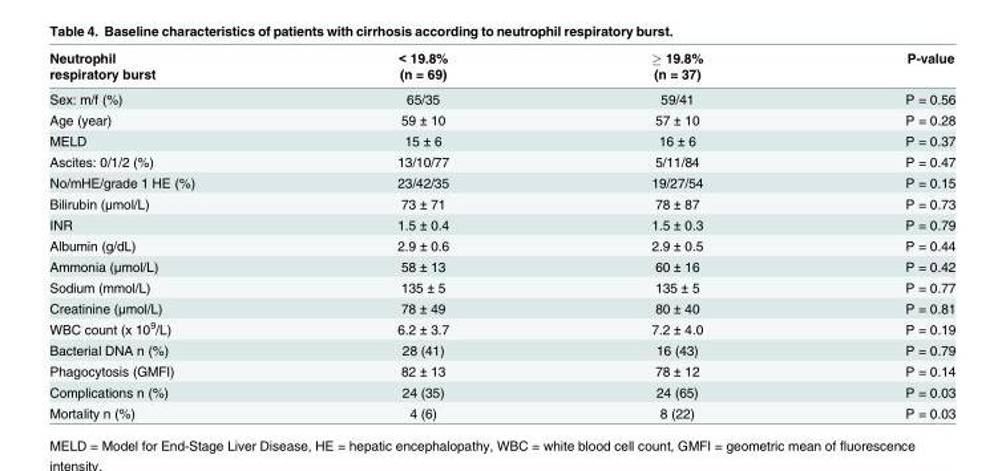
<table><thead><tr><td rowspan="2">Neutrophil respiratory burst</td><td rowspan="2">&lt; 19.8% (n = 69)</td><td rowspan="2">≥ 19.8% (n = 37)</td><td rowspan="2">P-value</td></tr><tr></tr></thead><tbody><tr><td>Sex: m/f (%)</td><td>65/35</td><td>59/41</td><td>P = 0.56</td></tr><tr><td>Age (year)</td><td>59 ± 10</td><td>57 ± 10</td><td>P = 0.28</td></tr><tr><td>MELD</td><td>15 ± 6</td><td>16 ± 6</td><td>P = 0.37</td></tr><tr><td>Ascites: 0/1/2 (%)</td><td>13/10/77</td><td>5/11/84</td><td>P = 0.47</td></tr><tr><td>No/mHE/grade 1 HE (%)</td><td>23/42/35</td><td>19/27/54</td><td>P = 0.15</td></tr><tr><td>Bilirubin (μmol/L)</td><td>73 ± 71</td><td>78 ± 87</td><td>P = 0.73</td></tr><tr><td>INR</td><td>1.5 ± 0.4</td><td>1.5 ± 0.3</td><td>P = 0.79</td></tr><tr><td>Albumin (g/dL)</td><td>2.9 ± 0.6</td><td>2.9 ± 0.5</td><td>P = 0.44</td></tr><tr><td>Ammonia (μmol/L)</td><td>58 ± 13</td><td>60 ± 16</td><td>P = 0.42</td></tr><tr><td>Sodium (mmol/L)</td><td>135 ± 5</td><td>135 ± 5</td><td>P = 0.77</td></tr><tr><td>Creatinine (μmol/L)</td><td>78 ± 49</td><td>80 ± 40</td><td>P = 0.81</td></tr><tr><td>WBC count (x 10<sup>9</sup>/L)</td><td>6.2 ± 3.7</td><td>7.2 ± 4.0</td><td>P = 0.19</td></tr><tr><td>Bacterial DNA n (%)</td><td>28 (41)</td><td>16 (43)</td><td>P = 0.79</td></tr><tr><td>Phagocytosis (GMFI)</td><td>82 ± 13</td><td>78 ± 12</td><td>P = 0.14</td></tr><tr><td>Complications n (%)</td><td>24 (35)</td><td>24 (65)</td><td>P = 0.03</td></tr><tr><td>Mortality n (%)</td><td>4 (6)</td><td>8 (22)</td><td>P = 0.03</td></tr></tbody></table>